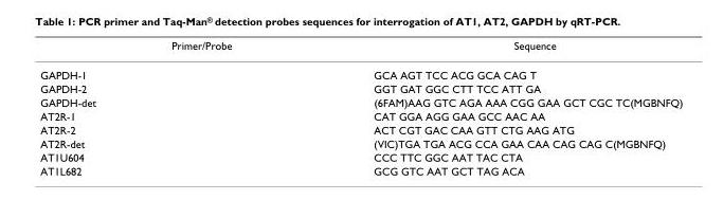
<table><thead><tr><td>Primer/Probe</td><td>Sequence</td></tr></thead><tbody><tr><td>GAPDH-1</td><td>GCA AGT TCC ACG GCA CAG T</td></tr><tr><td>GAPDH-2</td><td>GGT GAT GGC CTT TCC ATT GA</td></tr><tr><td>GAPDH-det</td><td>(6FAM)AAG GTC AGA AAA CGG GAA GCT CGC TC(MGBNFQ)</td></tr><tr><td>AT2R-1</td><td>CAT GGA AGG GAA GCC AAC AA</td></tr><tr><td>AT2R-2</td><td>ACT CGT GAC CAA GTT CTG AAG ATG</td></tr><tr><td>AT2R-det</td><td>(VIC)TGA TGA ACG CCA GAA CAA CAG CAG C(MGBNFQ)</td></tr><tr><td>AT1U604</td><td>CCC TTC GGC AAT TAC CTA</td></tr><tr><td>AT1L682</td><td>GCG GTC AAT GCT TAG ACA</td></tr></tbody></table>